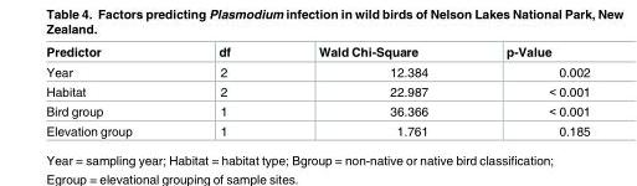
<table><thead><tr><td>Predictor</td><td>df</td><td>Wald Chi-Square</td><td>p-Value</td></tr></thead><tbody><tr><td>Year</td><td>2</td><td>12.384</td><td>0.002</td></tr><tr><td>Habitat</td><td>2</td><td>22.987</td><td>&lt; 0.001</td></tr><tr><td>Bird group</td><td>1</td><td>36.366</td><td>&lt; 0.001</td></tr><tr><td>Elevation group</td><td>1</td><td>1.761</td><td>0.185</td></tr></tbody></table>